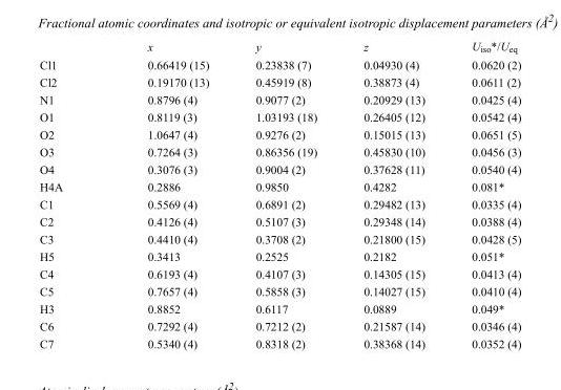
<table><thead><tr><td></td><td>x</td><td>y</td><td>z</td><td>U<sub>iso</sub>*/U<sub>eq</sub></td></tr></thead><tbody><tr><td>Cl1</td><td>0.66419 (15)</td><td>0.23838 (7)</td><td>0.04930 (4)</td><td>0.0620 (2)</td></tr><tr><td>Cl2</td><td>0.19170 (13)</td><td>0.45919 (8)</td><td>0.38873 (4)</td><td>0.0611 (2)</td></tr><tr><td>N1</td><td>0.8796 (4)</td><td>0.9077 (2)</td><td>0.20929 (13)</td><td>0.0425 (4)</td></tr><tr><td>O1</td><td>0.8119 (3)</td><td>1.03193 (18)</td><td>0.26405 (12)</td><td>0.0542 (4)</td></tr><tr><td>O2</td><td>1.0647 (4)</td><td>0.9276 (2)</td><td>0.15015 (13)</td><td>0.0651 (5)</td></tr><tr><td>O3</td><td>0.7264 (3)</td><td>0.86356 (19)</td><td>0.45830 (10)</td><td>0.0456 (3)</td></tr><tr><td>O4</td><td>0.3076 (3)</td><td>0.9004 (2)</td><td>0.37628 (11)</td><td>0.0540 (4)</td></tr><tr><td>H4A</td><td>0.2886</td><td>0.9850</td><td>0.4282</td><td>0.081*</td></tr><tr><td>C1</td><td>0.5569 (4)</td><td>0.6891 (2)</td><td>0.29482 (13)</td><td>0.0335 (4)</td></tr><tr><td>C2</td><td>0.4126 (4)</td><td>0.5107 (3)</td><td>0.29348 (14)</td><td>0.0388 (4)</td></tr><tr><td>C3</td><td>0.4410 (4)</td><td>0.3708 (2)</td><td>0.21800 (15)</td><td>0.0428 (5)</td></tr><tr><td>H5</td><td>0.3413</td><td>0.2525</td><td>0.2182</td><td>0.051*</td></tr><tr><td>C4</td><td>0.6193 (4)</td><td>0.4107 (3)</td><td>0.14305 (15)</td><td>0.0413 (4)</td></tr><tr><td>C5</td><td>0.7657 (4)</td><td>0.5858 (3)</td><td>0.14027 (15)</td><td>0.0410 (4)</td></tr><tr><td>H3</td><td>0.8852</td><td>0.6117</td><td>0.0889</td><td>0.049*</td></tr><tr><td>C6</td><td>0.7292 (4)</td><td>0.7212 (2)</td><td>0.21587 (14)</td><td>0.0346 (4)</td></tr><tr><td>C7</td><td>0.5340 (4)</td><td>0.8318 (2)</td><td>0.38368 (14)</td><td>0.0352 (4)</td></tr></tbody></table>